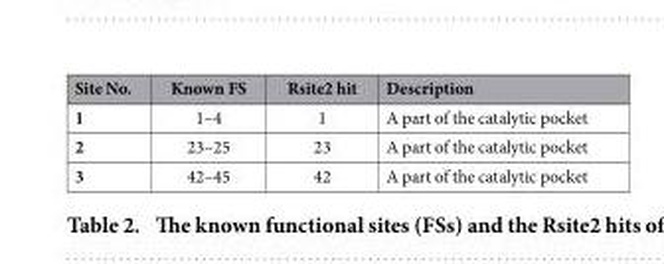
<table><thead><tr><td>Site No.</td><td>Known FS</td><td>Rsite2 hit</td><td>Description</td></tr></thead><tbody><tr><td>1</td><td>1–4</td><td>1</td><td>A part of the catalytic pocket</td></tr><tr><td>2</td><td>23–25</td><td>23</td><td>A part of the catalytic pocket</td></tr><tr><td>3</td><td>42–45</td><td>42</td><td>A part of the catalytic pocket</td></tr></tbody></table>